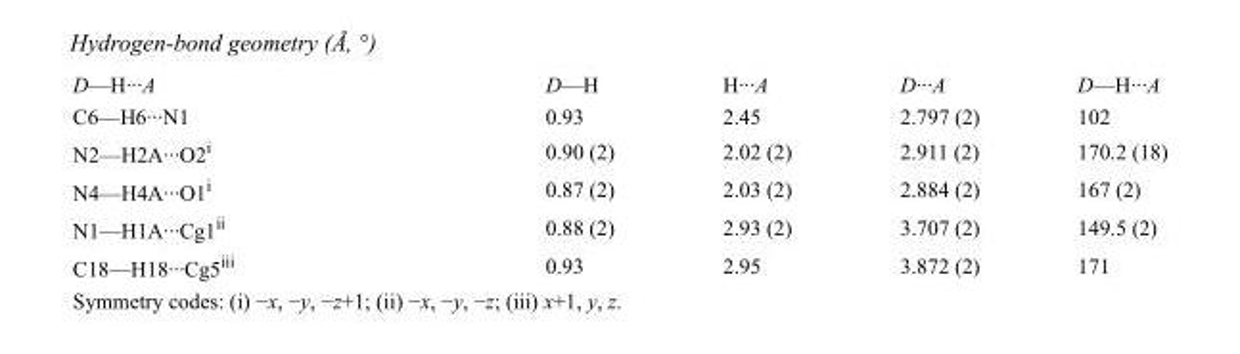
<table><tbody><tr><td>D—H···A</td><td>D—H</td><td>H···A</td><td>D···A</td><td>D—H···A</td></tr><tr><td>C6—H6···N1</td><td>0.93</td><td>2.45</td><td>2.797 (2)</td><td>102</td></tr><tr><td>N2—H2A···O2<sup>i</sup></td><td>0.90 (2)</td><td>2.02 (2)</td><td>2.911 (2)</td><td>170.2 (18)</td></tr><tr><td>N4—H4A···O1<sup>i</sup></td><td>0.87 (2)</td><td>2.03 (2)</td><td>2.884 (2)</td><td>167 (2)</td></tr><tr><td>N1—H1A···Cg1<sup>ii</sup></td><td>0.88 (2)</td><td>2.93 (2)</td><td>3.707 (2)</td><td>149.5 (2)</td></tr><tr><td>C18—H18···Cg5<sup>iii</sup></td><td>0.93</td><td>2.95</td><td>3.872 (2)</td><td>171</td></tr></tbody></table>